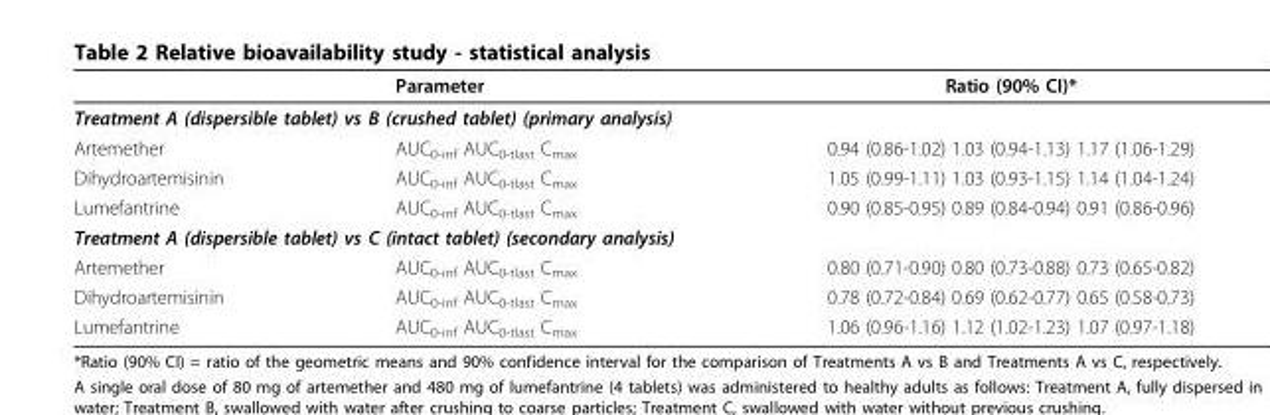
<table><thead><tr><td></td><td>Parameter</td><td>Ratio (90% CI)*</td></tr></thead><tbody><tr><td colspan="3">Treatment A (dispersible tablet) vs B (crushed tablet) (primary analysis)</td></tr><tr><td>Artemether</td><td>AUC<sub>0-inf</sub> AUC<sub>0-tlast</sub> C<sub>max</sub></td><td>0.94 (0.86-1.02) 1.03 (0.94-1.13) 1.17 (1.06-1.29)</td></tr><tr><td>Dihydroartemisinin</td><td>AUC<sub>0-inf</sub> AUC<sub>0-tlast</sub> C<sub>max</sub></td><td>1.05 (0.99-1.11) 1.03 (0.93-1.15) 1.14 (1.04-1.24)</td></tr><tr><td>Lumefantrine</td><td>AUC<sub>0-inf</sub> AUC<sub>0-tlast</sub> C<sub>max</sub></td><td>0.90 (0.85-0.95) 0.89 (0.84-0.94) 0.91 (0.86-0.96)</td></tr><tr><td colspan="3">Treatment A (dispersible tablet) vs C (intact tablet) (secondary analysis)</td></tr><tr><td>Artemether</td><td>AUC<sub>0-inf</sub> AUC<sub>0-tlast</sub> C<sub>max</sub></td><td>0.80 (0.71-0.90) 0.80 (0.73-0.88) 0.73 (0.65-0.82)</td></tr><tr><td>Dihydroartemisinin</td><td>AUC<sub>0-inf</sub> AUC<sub>0-tlast</sub> C<sub>max</sub></td><td>0.78 (0.72-0.84) 0.69 (0.62-0.77) 0.65 (0.58-0.73)</td></tr><tr><td>Lumefantrine</td><td>AUC<sub>0-inf</sub> AUC<sub>0-tlast</sub> C<sub>max</sub></td><td>1.06 (0.96-1.16) 1.12 (1.02-1.23) 1.07 (0.97-1.18)</td></tr></tbody></table>